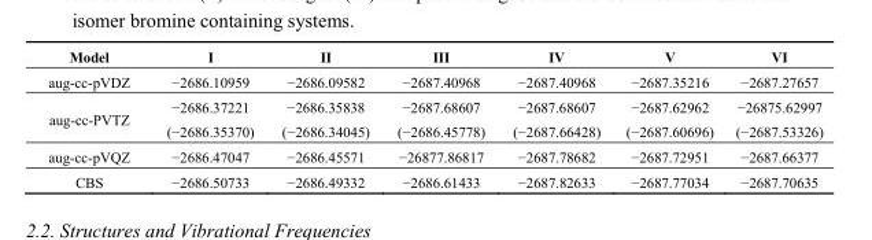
<table><thead><tr><td>Model</td><td>I</td><td>II</td><td>III</td><td>IV</td><td>V</td><td>VI</td></tr></thead><tbody><tr><td>aug-cc-pVDZ</td><td>−2686.10959</td><td>−2686.09582</td><td>−2687.40968</td><td>−2687.40968</td><td>−2687.35216</td><td>−2687.27657</td></tr><tr><td>aug-cc-PVTZ</td><td>−2686.37221 (−2686.35370)</td><td>−2686.35838 (−2686.34045)</td><td>−2687.68607 (−2686.45778)</td><td>−2687.68607 (−2687.66428)</td><td>−2687.62962 (−2687.60696)</td><td>−26875.62997 (−2687.53326)</td></tr><tr><td>aug-cc-pVQZ</td><td>−2686.47047</td><td>−2686.45571</td><td>−26877.86817</td><td>−2687.78682</td><td>−2687.72951</td><td>−2687.66377</td></tr><tr><td>CBS</td><td>−2686.50733</td><td>−2686.49332</td><td>−2686.61433</td><td>−2687.82633</td><td>−2687.77034</td><td>−2687.70635</td></tr></tbody></table>